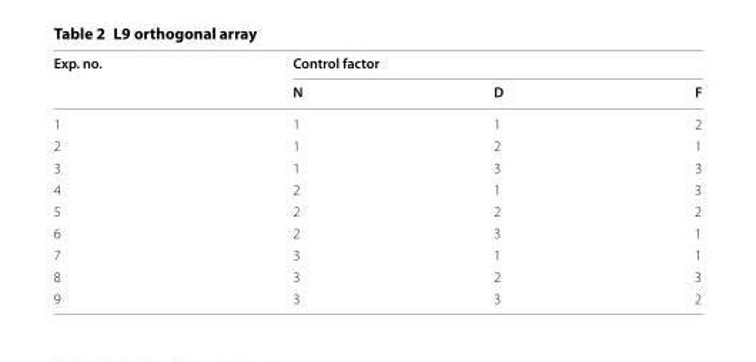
<table><thead><tr><td rowspan="2">Exp. no.</td><td colspan="3">Control factor</td></tr><tr><td>N</td><td>D</td><td>F</td></tr></thead><tbody><tr><td>1</td><td>1</td><td>1</td><td>2</td></tr><tr><td>2</td><td>1</td><td>2</td><td>1</td></tr><tr><td>3</td><td>1</td><td>3</td><td>3</td></tr><tr><td>4</td><td>2</td><td>1</td><td>3</td></tr><tr><td>5</td><td>2</td><td>2</td><td>2</td></tr><tr><td>6</td><td>2</td><td>3</td><td>1</td></tr><tr><td>7</td><td>3</td><td>1</td><td>1</td></tr><tr><td>8</td><td>3</td><td>2</td><td>3</td></tr><tr><td>9</td><td>3</td><td>3</td><td>2</td></tr></tbody></table>